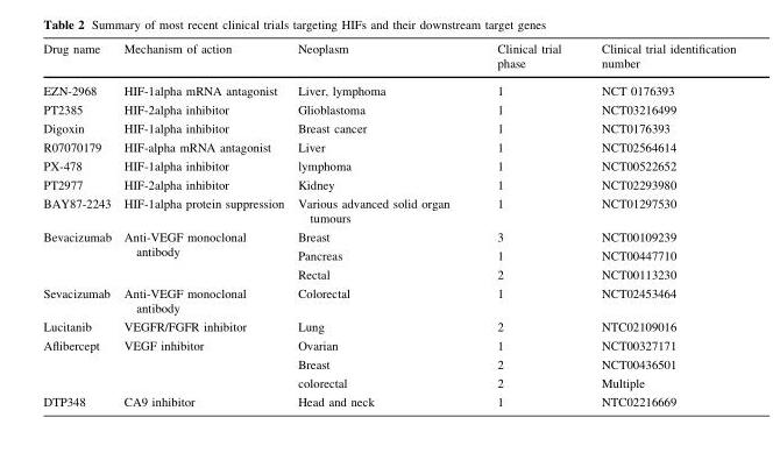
<table><thead><tr><td>Drug name</td><td>Mechanism of action</td><td>Neoplasm</td><td>Clinical trial phase</td><td>Clinical trial identification number</td></tr></thead><tbody><tr><td>EZN-2968</td><td>HIF-1alpha mRNA antagonist</td><td>Liver, lymphoma</td><td>1</td><td>NCT 0176393</td></tr><tr><td>PT2385</td><td>HIF-2alpha inhibitor</td><td>Glioblastoma</td><td>1</td><td>NCT03216499</td></tr><tr><td>Digoxin</td><td>HIF-1alpha inhibitor</td><td>Breast cancer</td><td>1</td><td>NCT0176393</td></tr><tr><td>R07070179</td><td>HIF-alpha mRNA antagonist</td><td>Liver</td><td>1</td><td>NCT02564614</td></tr><tr><td>PX-478</td><td>HIF-1alpha inhibitor</td><td>lymphoma</td><td>1</td><td>NCT00522652</td></tr><tr><td>PT2977</td><td>HIF-2alpha inhibitor</td><td>Kidney</td><td>1</td><td>NCT02293980</td></tr><tr><td>BAY87-2243</td><td>HIF-1alpha protein suppression</td><td>Various advanced solid organ tumours</td><td>1</td><td>NCT01297530</td></tr><tr><td rowspan="3">Bevacizumab</td><td rowspan="3">Anti-VEGF monoclonal antibody</td><td>Breast</td><td>3</td><td>NCT00109239</td></tr><tr><td>Pancreas</td><td>1</td><td>NCT00447710</td></tr><tr><td>Rectal</td><td>2</td><td>NCT00113230</td></tr><tr><td>Sevacizumab</td><td>Anti-VEGF monoclonal antibody</td><td>Colorectal</td><td>1</td><td>NCT02453464</td></tr><tr><td>Lucitanib</td><td>VEGFR/FGFR inhibitor</td><td>Lung</td><td>2</td><td>NTC02109016</td></tr><tr><td rowspan="3">Aflibercept</td><td rowspan="3">VEGF inhibitor</td><td>Ovarian</td><td>1</td><td>NCT00327171</td></tr><tr><td>Breast</td><td>2</td><td>NCT00436501</td></tr><tr><td>colorectal</td><td>2</td><td>Multiple</td></tr><tr><td>DTP348</td><td>CA9 inhibitor</td><td>Head and neck</td><td>1</td><td>NTC02216669</td></tr></tbody></table>